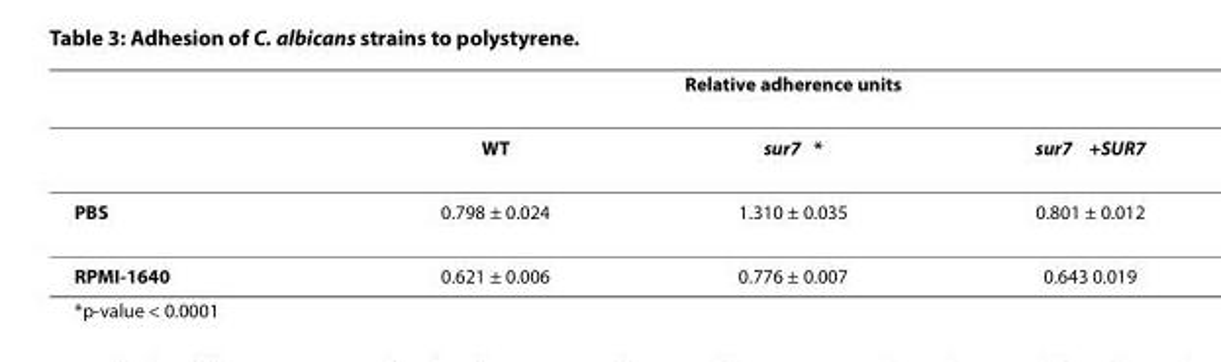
<table><thead><tr><td rowspan="2"></td><td colspan="3">Relative adherence units</td></tr><tr><td>WT</td><td>sur7 *</td><td>sur7 +SUR7</td></tr></thead><tbody><tr><td>PBS</td><td>0.798 ± 0.024</td><td>1.310 ± 0.035</td><td>0.801 ± 0.012</td></tr><tr><td>RPMI-1640</td><td>0.621 ± 0.006</td><td>0.776 ± 0.007</td><td>0.643 0.019</td></tr></tbody></table>